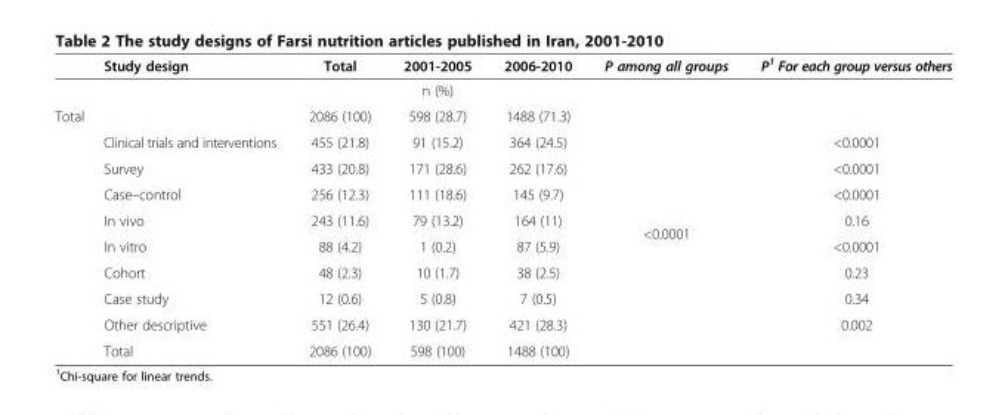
<table><thead><tr><td>Study design</td><td>Total</td><td>2001-2005</td><td>2006-2010</td><td>Ρ among all groups</td><td>Ρ<sup>1</sup> For each group versus others</td></tr></thead><tbody><tr><td></td><td></td><td>n (%)</td><td></td><td></td><td></td></tr><tr><td>Total</td><td>2086 (100)</td><td>598 (28.7)</td><td>1488 (71.3)</td><td></td><td></td></tr><tr><td>Clinical trials and interventions</td><td>455 (21.8)</td><td>91 (15.2)</td><td>364 (24.5)</td><td rowspan="8">&lt;0.0001</td><td>&lt;0.0001</td></tr><tr><td>Survey</td><td>433 (20.8)</td><td>171 (28.6)</td><td>262 (17.6)</td><td>&lt;0.0001</td></tr><tr><td>Case–control</td><td>256 (12.3)</td><td>111 (18.6)</td><td>145 (9.7)</td><td>&lt;0.0001</td></tr><tr><td>In vivo</td><td>243 (11.6)</td><td>79 (13.2)</td><td>164 (11)</td><td>0.16</td></tr><tr><td>In vitro</td><td>88 (4.2)</td><td>1 (0.2)</td><td>87 (5.9)</td><td>&lt;0.0001</td></tr><tr><td>Cohort</td><td>48 (2.3)</td><td>10 (1.7)</td><td>38 (2.5)</td><td>0.23</td></tr><tr><td>Case study</td><td>12 (0.6)</td><td>5 (0.8)</td><td>7 (0.5)</td><td>0.34</td></tr><tr><td>Other descriptive</td><td>551 (26.4)</td><td>130 (21.7)</td><td>421 (28.3)</td><td>0.002</td></tr><tr><td>Total</td><td>2086 (100)</td><td>598 (100)</td><td>1488 (100)</td><td></td><td></td></tr></tbody></table>